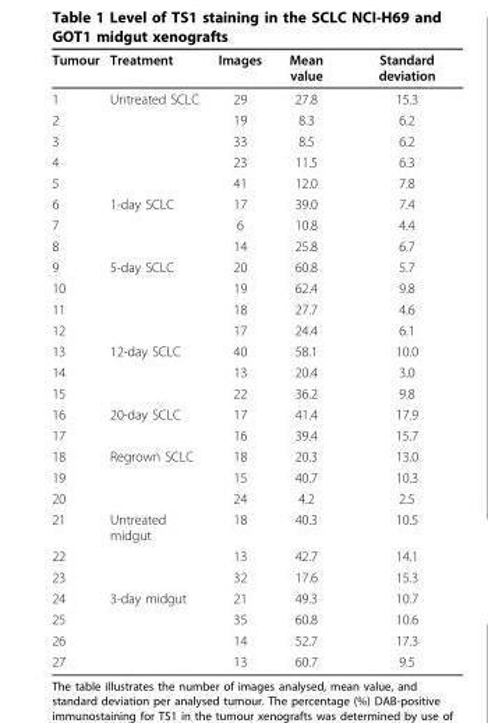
<table><thead><tr><td>Tumour</td><td>Treatment</td><td>Images</td><td>Mean value</td><td>Standard deviation</td></tr></thead><tbody><tr><td>1</td><td>Untreated SCLC</td><td>29</td><td>27.8</td><td>15.3</td></tr><tr><td>2</td><td></td><td>19</td><td>8.3</td><td>6.2</td></tr><tr><td>3</td><td></td><td>33</td><td>8.5</td><td>6.2</td></tr><tr><td>4</td><td></td><td>23</td><td>11.5</td><td>6.3</td></tr><tr><td>5</td><td></td><td>41</td><td>12.0</td><td>7.8</td></tr><tr><td>6</td><td>1-day SCLC</td><td>17</td><td>39.0</td><td>7.4</td></tr><tr><td>7</td><td></td><td>6</td><td>10.8</td><td>4.4</td></tr><tr><td>8</td><td></td><td>14</td><td>25.8</td><td>6.7</td></tr><tr><td>9</td><td>5-day SCLC</td><td>20</td><td>60.8</td><td>5.7</td></tr><tr><td>10</td><td></td><td>19</td><td>62.4</td><td>9.8</td></tr><tr><td>11</td><td></td><td>18</td><td>27.7</td><td>4.6</td></tr><tr><td>12</td><td></td><td>17</td><td>24.4</td><td>6.1</td></tr><tr><td>13</td><td>12-day SCLC</td><td>40</td><td>58.1</td><td>10.0</td></tr><tr><td>14</td><td></td><td>13</td><td>20.4</td><td>3.0</td></tr><tr><td>15</td><td></td><td>22</td><td>36.2</td><td>9.8</td></tr><tr><td>16</td><td>20-day SCLC</td><td>17</td><td>41.4</td><td>17.9</td></tr><tr><td>17</td><td></td><td>16</td><td>39.4</td><td>15.7</td></tr><tr><td>18</td><td>Regrown SCLC</td><td>18</td><td>20.3</td><td>13.0</td></tr><tr><td>19</td><td></td><td>15</td><td>40.7</td><td>10.3</td></tr><tr><td>20</td><td></td><td>24</td><td>4.2</td><td>2.5</td></tr><tr><td>21</td><td>Untreated midgut</td><td>18</td><td>40.3</td><td>10.5</td></tr><tr><td>22</td><td></td><td>13</td><td>42.7</td><td>14.1</td></tr><tr><td>23</td><td></td><td>32</td><td>17.6</td><td>15.3</td></tr><tr><td>24</td><td>3-day midgut</td><td>21</td><td>49.3</td><td>10.7</td></tr><tr><td>25</td><td></td><td>35</td><td>60.8</td><td>10.6</td></tr><tr><td>26</td><td></td><td>14</td><td>52.7</td><td>17.3</td></tr><tr><td>27</td><td></td><td>13</td><td>60.7</td><td>9.5</td></tr></tbody></table>